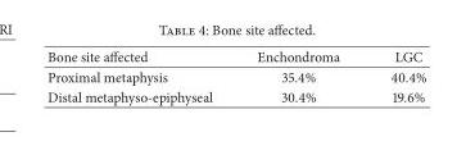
<table><thead><tr><td>Bone site affected</td><td>Enchondroma</td><td>LGC</td></tr></thead><tbody><tr><td>Proximal metaphysis</td><td>35.4%</td><td>40.4%</td></tr><tr><td>Distal metaphyso-epiphyseal</td><td>30.4%</td><td>19.6%</td></tr></tbody></table>